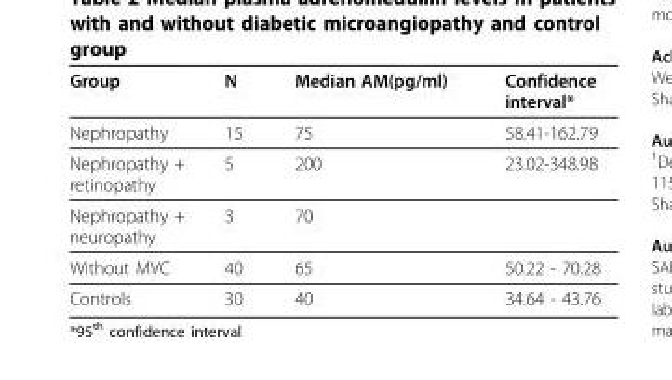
<table><thead><tr><td>Group</td><td>N</td><td>Median AM(pg/ml)</td><td>Confidence interval*</td></tr></thead><tbody><tr><td>Nephropathy</td><td>15</td><td>75</td><td>58.41-162.79</td></tr><tr><td>Nephropathy + retinopathy</td><td>5</td><td>200</td><td>23.02-348.98</td></tr><tr><td>Nephropathy + neuropathy</td><td>3</td><td>70</td><td></td></tr><tr><td>Without MVC</td><td>40</td><td>65</td><td>50.22 - 70.28</td></tr><tr><td>Controls</td><td>30</td><td>40</td><td>34.64 - 43.76</td></tr></tbody></table>